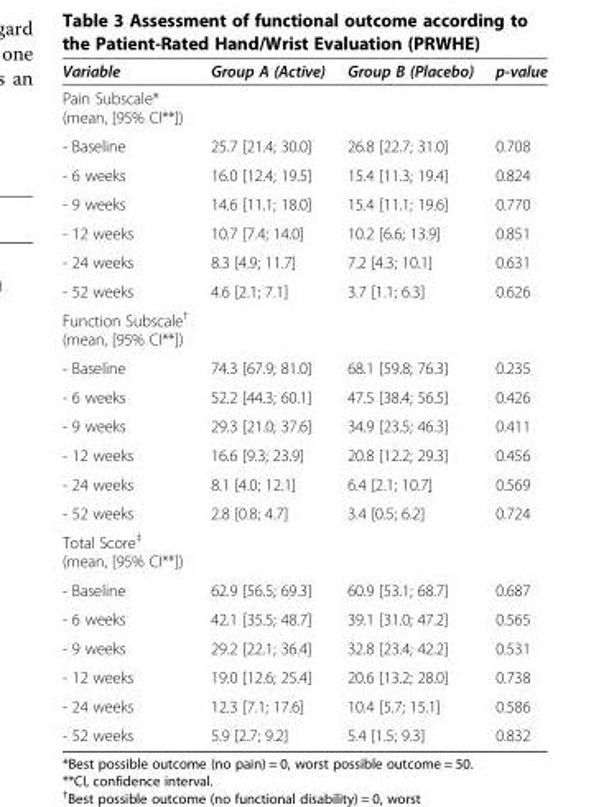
<table><thead><tr><td>Variable</td><td>Group A (Active)</td><td>Group B (Placebo)</td><td>p-value</td></tr></thead><tbody><tr><td colspan="4">Pain Subscale* (mean, [95% CI**])</td></tr><tr><td>- Baseline</td><td>25.7 [21.4; 30.0]</td><td>26.8 [22.7; 31.0]</td><td>0.708</td></tr><tr><td>- 6 weeks</td><td>16.0 [12.4; 19.5]</td><td>15.4 [11.3; 19.4]</td><td>0.824</td></tr><tr><td>- 9 weeks</td><td>14.6 [11.1; 18.0]</td><td>15.4 [11.1; 19.6]</td><td>0.770</td></tr><tr><td>- 12 weeks</td><td>10.7 [7.4; 14.0]</td><td>10.2 [6.6; 13.9]</td><td>0.851</td></tr><tr><td>- 24 weeks</td><td>8.3 [4.9; 11.7]</td><td>7.2 [4.3; 10.1]</td><td>0.631</td></tr><tr><td>- 52 weeks</td><td>4.6 [2.1; 7.1]</td><td>3.7 [1.1; 6.3]</td><td>0.626</td></tr><tr><td colspan="4">Function Subscale<sup>†</sup> (mean, [95% CI**])</td></tr><tr><td>- Baseline</td><td>74.3 [67.9; 81.0]</td><td>68.1 [59.8; 76.3]</td><td>0.235</td></tr><tr><td>- 6 weeks</td><td>52.2 [44.3; 60.1]</td><td>47.5 [38.4; 56.5]</td><td>0.426</td></tr><tr><td>- 9 weeks</td><td>29.3 [21.0; 37.6]</td><td>34.9 [23.5; 46.3]</td><td>0.411</td></tr><tr><td>- 12 weeks</td><td>16.6 [9.3; 23.9]</td><td>20.8 [12.2; 29.3]</td><td>0.456</td></tr><tr><td>- 24 weeks</td><td>8.1 [4.0; 12.1]</td><td>6.4 [2.1; 10.7]</td><td>0.569</td></tr><tr><td>- 52 weeks</td><td>2.8 [0.8; 4.7]</td><td>3.4 [0.5; 6.2]</td><td>0.724</td></tr><tr><td colspan="4">Total Score<sup>‡</sup> (mean, [95% CI**])</td></tr><tr><td>- Baseline</td><td>62.9 [56.5; 69.3]</td><td>60.9 [53.1; 68.7]</td><td>0.687</td></tr><tr><td>- 6 weeks</td><td>42.1 [35.5; 48.7]</td><td>39.1 [31.0; 47.2]</td><td>0.565</td></tr><tr><td>- 9 weeks</td><td>29.2 [22.1; 36.4]</td><td>32.8 [23.4; 42.2]</td><td>0.531</td></tr><tr><td>- 12 weeks</td><td>19.0 [12.6; 25.4]</td><td>20.6 [13.2; 28.0]</td><td>0.738</td></tr><tr><td>- 24 weeks</td><td>12.3 [7.1; 17.6]</td><td>10.4 [5.7; 15.1]</td><td>0.586</td></tr><tr><td>- 52 weeks</td><td>5.9 [2.7; 9.2]</td><td>5.4 [1.5; 9.3]</td><td>0.832</td></tr></tbody></table>